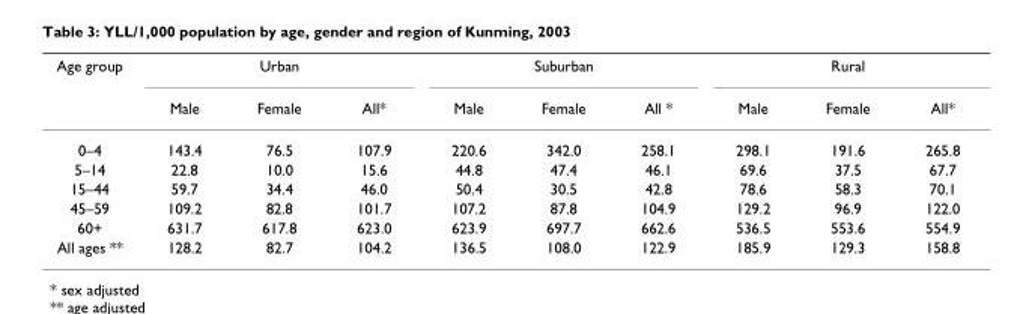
<table><thead><tr><td rowspan="2">Age group</td><td colspan="3">Urban</td><td colspan="3">Suburban</td><td colspan="3">Rural</td></tr><tr><td>Male</td><td>Female</td><td>All*</td><td>Male</td><td>Female</td><td>All *</td><td>Male</td><td>Female</td><td>All*</td></tr></thead><tbody><tr><td>0–4</td><td>143.4</td><td>76.5</td><td>107.9</td><td>220.6</td><td>342.0</td><td>258.1</td><td>298.1</td><td>191.6</td><td>265.8</td></tr><tr><td>5–14</td><td>22.8</td><td>10.0</td><td>15.6</td><td>44.8</td><td>47.4</td><td>46.1</td><td>69.6</td><td>37.5</td><td>67.7</td></tr><tr><td>15–44</td><td>59.7</td><td>34.4</td><td>46.0</td><td>50.4</td><td>30.5</td><td>42.8</td><td>78.6</td><td>58.3</td><td>70.1</td></tr><tr><td>45–59</td><td>109.2</td><td>82.8</td><td>101.7</td><td>107.2</td><td>87.8</td><td>104.9</td><td>129.2</td><td>96.9</td><td>122.0</td></tr><tr><td>60+</td><td>631.7</td><td>617.8</td><td>623.0</td><td>623.9</td><td>697.7</td><td>662.6</td><td>536.5</td><td>553.6</td><td>554.9</td></tr><tr><td>All ages **</td><td>128.2</td><td>82.7</td><td>104.2</td><td>136.5</td><td>108.0</td><td>122.9</td><td>185.9</td><td>129.3</td><td>158.8</td></tr></tbody></table>